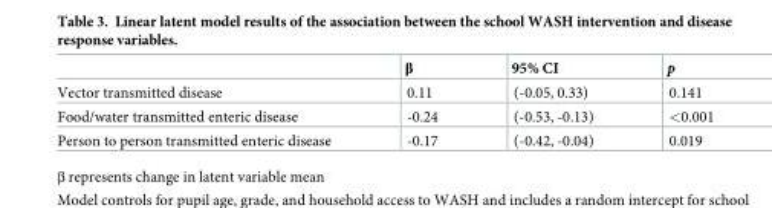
<table><thead><tr><td></td><td>β</td><td>95% CI</td><td>p</td></tr></thead><tbody><tr><td>Vector transmitted disease</td><td>0.11</td><td>(-0.05, 0.33)</td><td>0.141</td></tr><tr><td>Food/water transmitted enteric disease</td><td>-0.24</td><td>(-0.53, -0.13)</td><td>&lt;0.001</td></tr><tr><td>Person to person transmitted enteric disease</td><td>-0.17</td><td>(-0.42, -0.04)</td><td>0.019</td></tr></tbody></table>